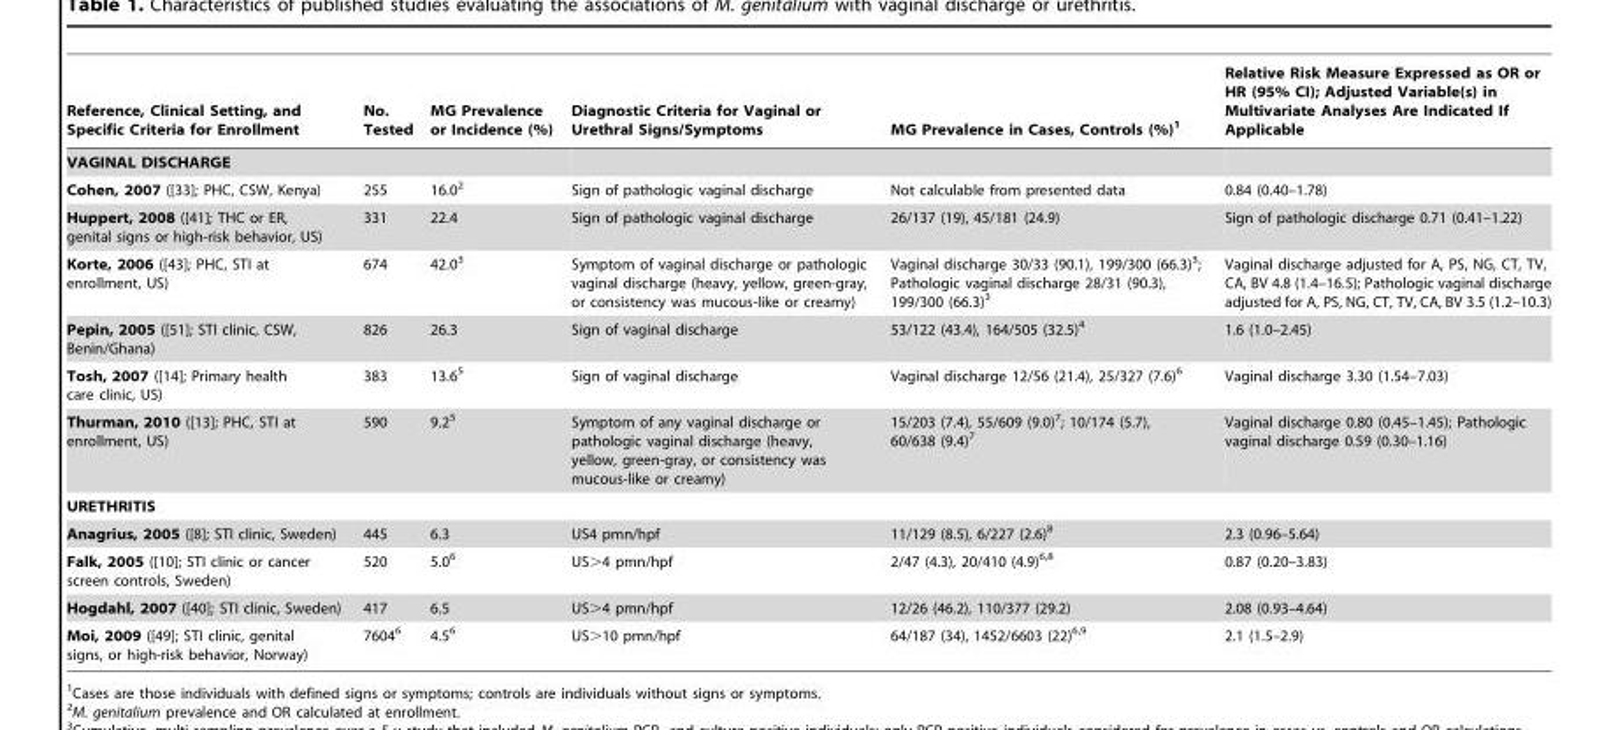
<table><thead><tr><td>Reference, Clinical Setting, and Specific Criteria for Enrollment</td><td>No. Tested</td><td>MG Prevalence or Incidence (%)</td><td>Diagnostic Criteria for Vaginal or Urethral Signs/Symptoms</td><td>MG Prevalence in Cases, Controls (%)<sup>1</sup></td><td>Relative Risk Measure Expressed as OR or HR (95% CI); Adjusted Variable(s) in Multivariate Analyses Are Indicated If Applicable</td></tr></thead><tbody><tr><td colspan="6">VAGINAL DISCHARGE</td></tr><tr><td>Cohen, 2007 ([33]; PHC, CSW, Kenya)</td><td>255</td><td>16.0<sup>2</sup></td><td>Sign of pathologic vaginal discharge</td><td>Not calculable from presented data</td><td>0.84 (0.40–1.78)</td></tr><tr><td>Huppert, 2008 ([41]; THC or ER, genital signs or high-risk behavior, US)</td><td>331</td><td>22.4</td><td>Sign of pathologic vaginal discharge</td><td>26/137 (19), 45/181 (24.9)</td><td>Sign of pathologic discharge 0.71 (0.41–1.22)</td></tr><tr><td>Korte, 2006 ([43]; PHC, STI at enrollment, US)</td><td>674</td><td>42.0<sup>3</sup></td><td>Symptom of vaginal discharge or pathologic vaginal discharge (heavy, yellow, green-gray, or consistency was mucous-like or creamy)</td><td>Vaginal discharge 30/33 (90.1), 199/300 (66.3)<sup>3</sup>; Pathologic vaginal discharge 28/31 (90.3), 199/300 (66.3)<sup>3</sup></td><td>Vaginal discharge adjusted for A, PS, NG, CT, TV, CA, BV 4.8 (1.4–16.5); Pathologic vaginal discharge adjusted for A, PS, NG, CT, TV, CA, BV 3.5 (1.2–10.3)</td></tr><tr><td>Pepin, 2005 ([51]; STI clinic, CSW, Benin/Ghana)</td><td>826</td><td>26.3</td><td>Sign of vaginal discharge</td><td>53/122 (43.4), 164/505 (32.5)<sup>4</sup></td><td>1.6 (1.0–2.45)</td></tr><tr><td>Tosh, 2007 ([14]; Primary health care clinic, US)</td><td>383</td><td>13.6<sup>5</sup></td><td>Sign of vaginal discharge</td><td>Vaginal discharge 12/56 (21.4), 25/327 (7.6)<sup>6</sup></td><td>Vaginal discharge 3.30 (1.54–7.03)</td></tr><tr><td>Thurman, 2010 ([13]; PHC, STI at enrollment, US)</td><td>590</td><td>9.2<sup>5</sup></td><td>Symptom of any vaginal discharge or pathologic vaginal discharge (heavy, yellow, green-gray, or consistency was mucous-like or creamy)</td><td>15/203 (7.4), 55/609 (9.0)<sup>7</sup>; 10/174 (5.7), 60/638 (9.4)<sup>7</sup></td><td>Vaginal discharge 0.80 (0.45–1.45); Pathologic vaginal discharge 0.59 (0.30–1.16)</td></tr><tr><td colspan="6">URETHRITIS</td></tr><tr><td>Anagrius, 2005 ([8]; STI clinic, Sweden)</td><td>445</td><td>6.3</td><td>US4 pmn/hpf</td><td>11/129 (8.5), 6/227 (2.6)<sup>8</sup></td><td>2.3 (0.96–5.64)</td></tr><tr><td>Falk, 2005 ([10]; STI clinic or cancer screen controls, Sweden)</td><td>520</td><td>5.0<sup>6</sup></td><td>US&gt;4 pmn/hpf</td><td>2/47 (4.3), 20/410 (4.9)<sup>6,</sup>8</td><td>0.87 (0.20–3.83)</td></tr><tr><td>Hogdahl, 2007 ([40]; STI clinic, Sweden)</td><td>417</td><td>6.5</td><td>US&gt;4 pmn/hpf</td><td>12/26 (46.2), 110/377 (29.2)</td><td>2.08 (0.93–4.64)</td></tr><tr><td>Moi, 2009 ([49]; STI clinic, genital signs, or high-risk behavior, Norway)</td><td>7604<sup>6</sup></td><td>4.5<sup>6</sup></td><td>US&gt;10 pmn/hpf</td><td>64/187 (34), 1452/6603 (22)<sup>6,</sup>9</td><td>2.1 (1.5–2.9)</td></tr></tbody></table>